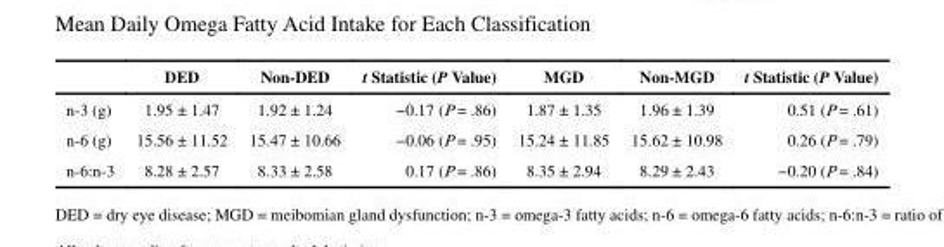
<table><thead><tr><td></td><td>DED</td><td>Non-DED</td><td>t Statistic (P Value)</td><td>MGD</td><td>Non-MGD</td><td>t Statistic (P Value)</td></tr></thead><tbody><tr><td>n-3 (g)</td><td>1.95 ± 1.47</td><td>1.92 ± 1.24</td><td>−0.17 (P = .86)</td><td>1.87 ± 1.35</td><td>1.96 ± 1.39</td><td>0.51 (P = .61)</td></tr><tr><td>n-6 (g)</td><td>15.56 ± 11.52</td><td>15.47 ± 10.66</td><td>−0.06 (P = .95)</td><td>15.24 ± 11.85</td><td>15.62 ± 10.98</td><td>0.26 (P = .79)</td></tr><tr><td>n-6:n-3</td><td>8.28 ± 2.57</td><td>8.33 ± 2.58</td><td>0.17 (P = .86)</td><td>8.35 ± 2.94</td><td>8.29 ± 2.43</td><td>−0.20 (P = .84)</td></tr></tbody></table>